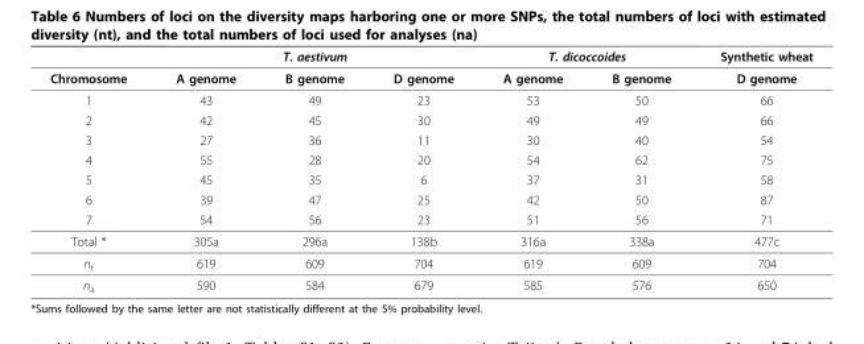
<table><thead><tr><td rowspan="2">Chromosome</td><td colspan="3">T. aestivum</td><td colspan="2">T. dicoccoides</td><td rowspan="2">Synthetic wheat D genome</td></tr><tr><td>A genome</td><td>B genome</td><td>D genome</td><td>A genome</td><td>B genome</td></tr></thead><tbody><tr><td>1</td><td>43</td><td>49</td><td>23</td><td>53</td><td>50</td><td>66</td></tr><tr><td>2</td><td>42</td><td>45</td><td>30</td><td>49</td><td>49</td><td>66</td></tr><tr><td>3</td><td>27</td><td>36</td><td>11</td><td>30</td><td>40</td><td>54</td></tr><tr><td>4</td><td>55</td><td>28</td><td>20</td><td>54</td><td>62</td><td>75</td></tr><tr><td>5</td><td>45</td><td>35</td><td>6</td><td>37</td><td>31</td><td>58</td></tr><tr><td>6</td><td>39</td><td>47</td><td>25</td><td>42</td><td>50</td><td>87</td></tr><tr><td>7</td><td>54</td><td>56</td><td>23</td><td>51</td><td>56</td><td>71</td></tr><tr><td>Total *</td><td>305a</td><td>296a</td><td>138b</td><td>316a</td><td>338a</td><td>477c</td></tr><tr><td>n<sub>t</sub></td><td>619</td><td>609</td><td>704</td><td>619</td><td>609</td><td>704</td></tr><tr><td>n<sub>a</sub></td><td>590</td><td>584</td><td>679</td><td>585</td><td>576</td><td>650</td></tr></tbody></table>